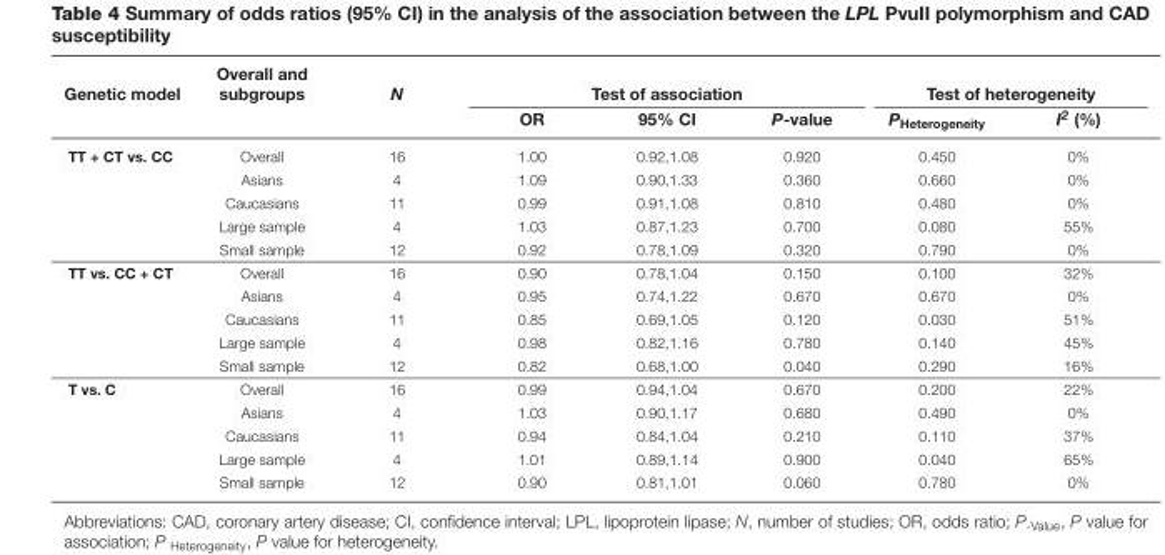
<table><thead><tr><td rowspan="2">Genetic model</td><td rowspan="2">Overall and subgroups</td><td rowspan="2">N</td><td colspan="3">Test of association</td><td colspan="2">Test of heterogeneity</td></tr><tr><td>OR</td><td>95% CI</td><td>P-value</td><td>P<sub>Heterogeneity</sub></td><td>I<sup>2</sup> (%)</td></tr></thead><tbody><tr><td rowspan="5">TT + CT vs. CC</td><td>Overall</td><td>16</td><td>1.00</td><td>0.92,1.08</td><td>0.920</td><td>0.450</td><td>0%</td></tr><tr><td>Asians</td><td>4</td><td>1.09</td><td>0.90,1.33</td><td>0.360</td><td>0.660</td><td>0%</td></tr><tr><td>Caucasians</td><td>11</td><td>0.99</td><td>0.91,1.08</td><td>0.810</td><td>0.480</td><td>0%</td></tr><tr><td>Large sample</td><td>4</td><td>1.03</td><td>0.87,1.23</td><td>0.700</td><td>0.080</td><td>55%</td></tr><tr><td>Small sample</td><td>12</td><td>0.92</td><td>0.78,1.09</td><td>0.320</td><td>0.790</td><td>0%</td></tr><tr><td rowspan="5">TT vs. CC + CT</td><td>Overall</td><td>16</td><td>0.90</td><td>0.78,1.04</td><td>0.150</td><td>0.100</td><td>32%</td></tr><tr><td>Asians</td><td>4</td><td>0.95</td><td>0.74,1.22</td><td>0.670</td><td>0.670</td><td>0%</td></tr><tr><td>Caucasians</td><td>11</td><td>0.85</td><td>0.69,1.05</td><td>0.120</td><td>0.030</td><td>51%</td></tr><tr><td>Large sample</td><td>4</td><td>0.98</td><td>0.82,1.16</td><td>0.780</td><td>0.140</td><td>45%</td></tr><tr><td>Small sample</td><td>12</td><td>0.82</td><td>0.68,1.00</td><td>0.040</td><td>0.290</td><td>16%</td></tr><tr><td rowspan="5">T vs. C</td><td>Overall</td><td>16</td><td>0.99</td><td>0.94,1.04</td><td>0.670</td><td>0.200</td><td>22%</td></tr><tr><td>Asians</td><td>4</td><td>1.03</td><td>0.90,1.17</td><td>0.680</td><td>0.490</td><td>0%</td></tr><tr><td>Caucasians</td><td>11</td><td>0.94</td><td>0.84,1.04</td><td>0.210</td><td>0.110</td><td>37%</td></tr><tr><td>Large sample</td><td>4</td><td>1.01</td><td>0.89,1.14</td><td>0.900</td><td>0.040</td><td>65%</td></tr><tr><td>Small sample</td><td>12</td><td>0.90</td><td>0.81,1.01</td><td>0.060</td><td>0.780</td><td>0%</td></tr></tbody></table>